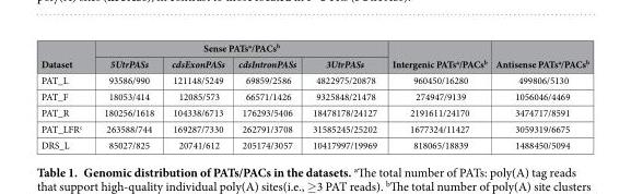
<table><thead><tr><td rowspan="2">Dataset</td><td colspan="4">Sense PATs<sup>a</sup>/PACs<sup>b</sup></td><td rowspan="2">Intergenic PATs<sup>a</sup>/PACs<sup>b</sup></td><td rowspan="2">Antisense PATs<sup>a</sup>/PACs<sup>b</sup></td></tr><tr><td>5UtrPASs</td><td>cdsExonPASs</td><td>cdsIntronPASs</td><td>3UtrPASs</td></tr></thead><tbody><tr><td>PAT_L</td><td>93586/990</td><td>121148/5249</td><td>69859/2586</td><td>4822975/20878</td><td>960450/16280</td><td>499806/5130</td></tr><tr><td>PAT_F</td><td>18053/414</td><td>12085/573</td><td>66571/1426</td><td>9325848/21478</td><td>274947/9139</td><td>1056046/4469</td></tr><tr><td>PAT_R</td><td>180256/1618</td><td>104338/6713</td><td>176293/5406</td><td>18478178/24127</td><td>2191611/24170</td><td>3474717/8591</td></tr><tr><td>PAT_LFR<sup>c</sup></td><td>263588/744</td><td>169287/7330</td><td>262791/3708</td><td>31585245/25202</td><td>1677324/11427</td><td>3059319/6675</td></tr><tr><td>DRS_L</td><td>85027/825</td><td>20741/612</td><td>205174/3057</td><td>10417997/19969</td><td>818065/18839</td><td>1488450/5094</td></tr></tbody></table>